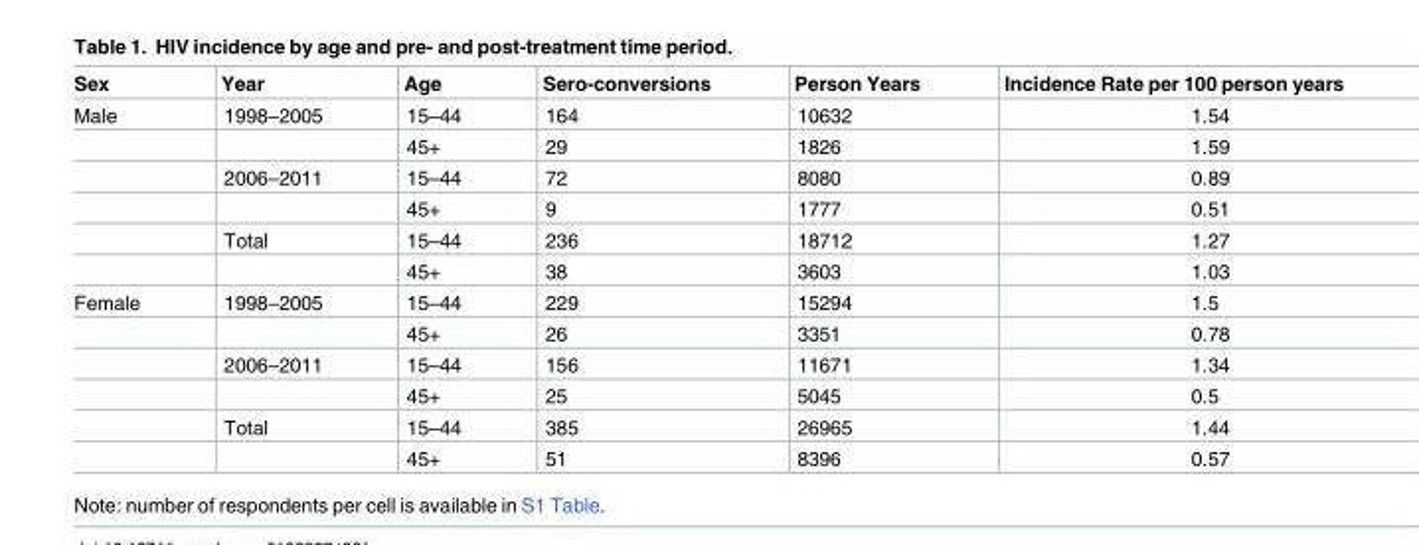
<table><thead><tr><td>Sex</td><td>Year</td><td>Age</td><td>Sero-conversions</td><td>Person Years</td><td>Incidence Rate per 100 person years</td></tr></thead><tbody><tr><td rowspan="6">Male</td><td>1998–2005</td><td>15–44</td><td>164</td><td>10632</td><td>1.54</td></tr><tr><td></td><td>45+</td><td>29</td><td>1826</td><td>1.59</td></tr><tr><td>2006–2011</td><td>15–44</td><td>72</td><td>8080</td><td>0.89</td></tr><tr><td></td><td>45+</td><td>9</td><td>1777</td><td>0.51</td></tr><tr><td>Total</td><td>15–44</td><td>236</td><td>18712</td><td>1.27</td></tr><tr><td></td><td>45+</td><td>38</td><td>3603</td><td>1.03</td></tr><tr><td rowspan="6">Female</td><td>1998–2005</td><td>15–44</td><td>229</td><td>15294</td><td>1.5</td></tr><tr><td></td><td>45+</td><td>26</td><td>3351</td><td>0.78</td></tr><tr><td>2006–2011</td><td>15–44</td><td>156</td><td>11671</td><td>1.34</td></tr><tr><td></td><td>45+</td><td>25</td><td>5045</td><td>0.5</td></tr><tr><td>Total</td><td>15–44</td><td>385</td><td>26965</td><td>1.44</td></tr><tr><td></td><td>45+</td><td>51</td><td>8396</td><td>0.57</td></tr></tbody></table>